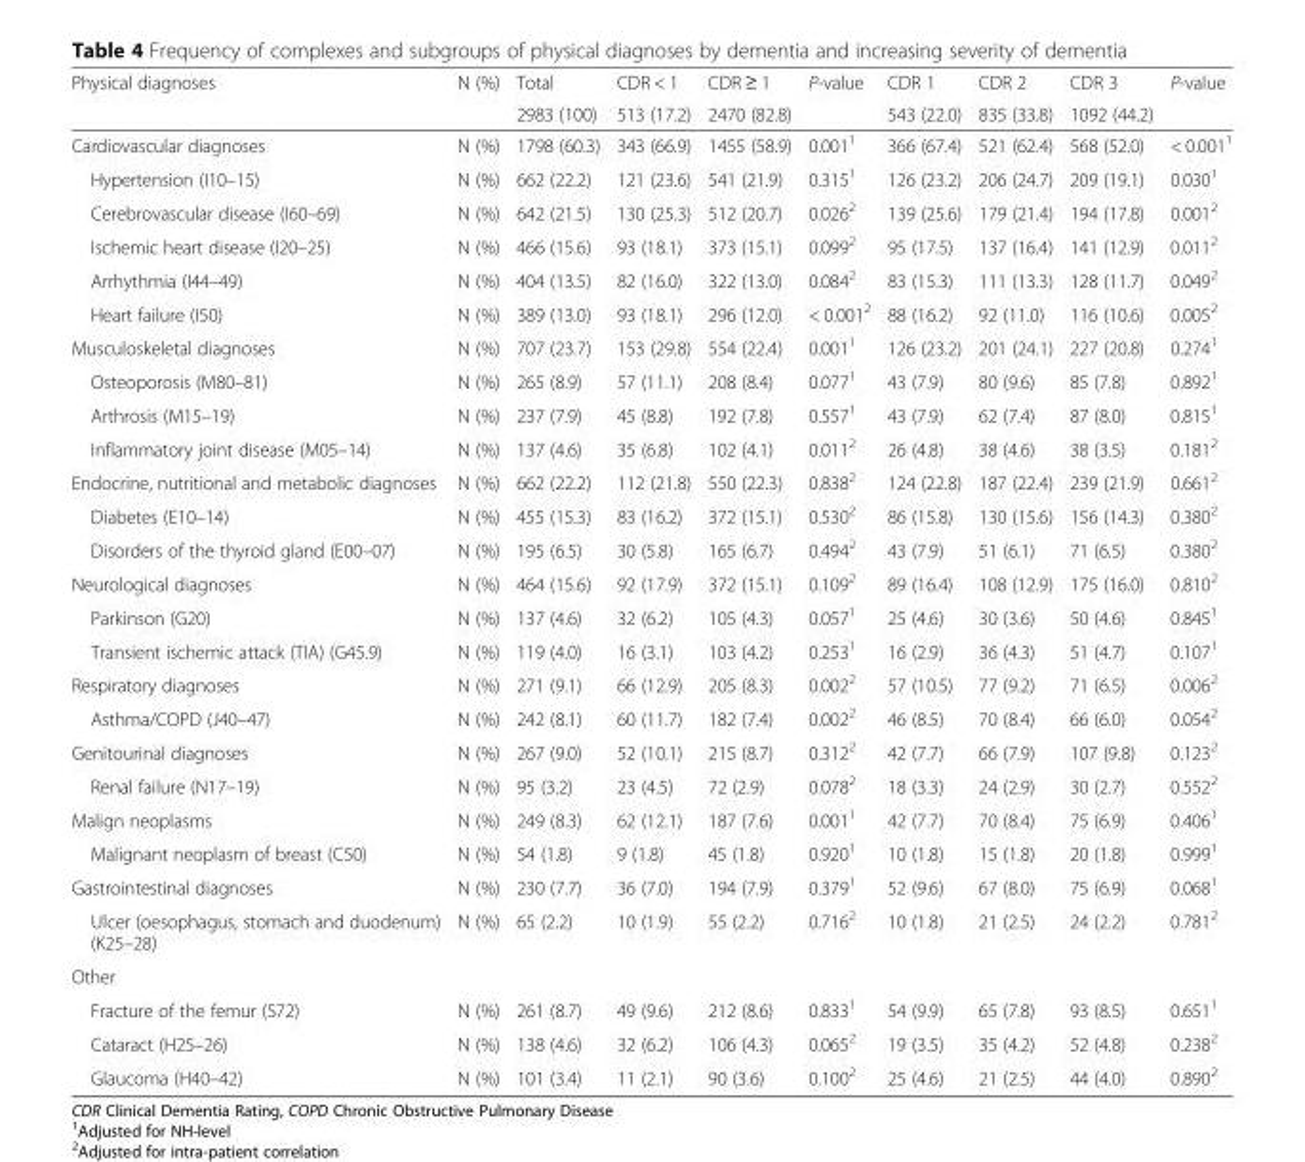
<table><thead><tr><td rowspan="2">Physical diagnoses</td><td rowspan="2">N (%)</td><td rowspan="2">Total 2983 (100)</td><td rowspan="2">CDR &lt; 1 513 (17.2)</td><td rowspan="2">CDR ≥ 1 2470 (82.8)</td><td rowspan="2">P-value</td><td rowspan="2">CDR 1 543 (22.0)</td><td rowspan="2">CDR 2 835 (33.8)</td><td rowspan="2">CDR 3 1092 (44.2)</td><td rowspan="2">P-value</td></tr><tr></tr></thead><tbody><tr><td>Cardiovascular diagnoses</td><td>N (%)</td><td>1798 (60.3)</td><td>343 (66.9)</td><td>1455 (58.9)</td><td>0.001<sup>1</sup></td><td>366 (67.4)</td><td>521 (62.4)</td><td>568 (52.0)</td><td>&lt; 0.001<sup>1</sup></td></tr><tr><td>Hypertension (I10–15)</td><td>N (%)</td><td>662 (22.2)</td><td>121 (23.6)</td><td>541 (21.9)</td><td>0.315<sup>1</sup></td><td>126 (23.2)</td><td>206 (24.7)</td><td>209 (19.1)</td><td>0.030<sup>1</sup></td></tr><tr><td>Cerebrovascular disease (I60–69)</td><td>N (%)</td><td>642 (21.5)</td><td>130 (25.3)</td><td>512 (20.7)</td><td>0.026<sup>2</sup></td><td>139 (25.6)</td><td>179 (21.4)</td><td>194 (17.8)</td><td>0.001<sup>2</sup></td></tr><tr><td>Ischemic heart disease (I20–25)</td><td>N (%)</td><td>466 (15.6)</td><td>93 (18.1)</td><td>373 (15.1)</td><td>0.099<sup>2</sup></td><td>95 (17.5)</td><td>137 (16.4)</td><td>141 (12.9)</td><td>0.011<sup>2</sup></td></tr><tr><td>Arrhythmia (I44–49)</td><td>N (%)</td><td>404 (13.5)</td><td>82 (16.0)</td><td>322 (13.0)</td><td>0.084<sup>2</sup></td><td>83 (15.3)</td><td>111 (13.3)</td><td>128 (11.7)</td><td>0.049<sup>2</sup></td></tr><tr><td>Heart failure (I50)</td><td>N (%)</td><td>389 (13.0)</td><td>93 (18.1)</td><td>296 (12.0)</td><td>&lt; 0.001<sup>2</sup></td><td>88 (16.2)</td><td>92 (11.0)</td><td>116 (10.6)</td><td>0.005<sup>2</sup></td></tr><tr><td>Musculoskeletal diagnoses</td><td>N (%)</td><td>707 (23.7)</td><td>153 (29.8)</td><td>554 (22.4)</td><td>0.001<sup>1</sup></td><td>126 (23.2)</td><td>201 (24.1)</td><td>227 (20.8)</td><td>0.274<sup>1</sup></td></tr><tr><td>Osteoporosis (M80–81)</td><td>N (%)</td><td>265 (8.9)</td><td>57 (11.1)</td><td>208 (8.4)</td><td>0.077<sup>1</sup></td><td>43 (7.9)</td><td>80 (9.6)</td><td>85 (7.8)</td><td>0.892<sup>1</sup></td></tr><tr><td>Arthrosis (M15–19)</td><td>N (%)</td><td>237 (7.9)</td><td>45 (8.8)</td><td>192 (7.8)</td><td>0.557<sup>1</sup></td><td>43 (7.9)</td><td>62 (7.4)</td><td>87 (8.0)</td><td>0.815<sup>1</sup></td></tr><tr><td>Inflammatory joint disease (M05–14)</td><td>N (%)</td><td>137 (4.6)</td><td>35 (6.8)</td><td>102 (4.1)</td><td>0.011<sup>2</sup></td><td>26 (4.8)</td><td>38 (4.6)</td><td>38 (3.5)</td><td>0.181<sup>2</sup></td></tr><tr><td>Endocrine, nutritional and metabolic diagnoses</td><td>N (%)</td><td>662 (22.2)</td><td>112 (21.8)</td><td>550 (22.3)</td><td>0.838<sup>2</sup></td><td>124 (22.8)</td><td>187 (22.4)</td><td>239 (21.9)</td><td>0.661<sup>2</sup></td></tr><tr><td>Diabetes (E10–14)</td><td>N (%)</td><td>455 (15.3)</td><td>83 (16.2)</td><td>372 (15.1)</td><td>0.530<sup>2</sup></td><td>86 (15.8)</td><td>130 (15.6)</td><td>156 (14.3)</td><td>0.380<sup>2</sup></td></tr><tr><td>Disorders of the thyroid gland (E00–07)</td><td>N (%)</td><td>195 (6.5)</td><td>30 (5.8)</td><td>165 (6.7)</td><td>0.494<sup>2</sup></td><td>43 (7.9)</td><td>51 (6.1)</td><td>71 (6.5)</td><td>0.380<sup>2</sup></td></tr><tr><td>Neurological diagnoses</td><td>N (%)</td><td>464 (15.6)</td><td>92 (17.9)</td><td>372 (15.1)</td><td>0.109<sup>2</sup></td><td>89 (16.4)</td><td>108 (12.9)</td><td>175 (16.0)</td><td>0.810<sup>2</sup></td></tr><tr><td>Parkinson (G20)</td><td>N (%)</td><td>137 (4.6)</td><td>32 (6.2)</td><td>105 (4.3)</td><td>0.057<sup>1</sup></td><td>25 (4.6)</td><td>30 (3.6)</td><td>50 (4.6)</td><td>0.845<sup>1</sup></td></tr><tr><td>Transient ischemic attack (TIA) (G45.9)</td><td>N (%)</td><td>119 (4.0)</td><td>16 (3.1)</td><td>103 (4.2)</td><td>0.253<sup>1</sup></td><td>16 (2.9)</td><td>36 (4.3)</td><td>51 (4.7)</td><td>0.107<sup>1</sup></td></tr><tr><td>Respiratory diagnoses</td><td>N (%)</td><td>271 (9.1)</td><td>66 (12.9)</td><td>205 (8.3)</td><td>0.002<sup>2</sup></td><td>57 (10.5)</td><td>77 (9.2)</td><td>71 (6.5)</td><td>0.006<sup>2</sup></td></tr><tr><td>Asthma/COPD (J40–47)</td><td>N (%)</td><td>242 (8.1)</td><td>60 (11.7)</td><td>182 (7.4)</td><td>0.002<sup>2</sup></td><td>46 (8.5)</td><td>70 (8.4)</td><td>66 (6.0)</td><td>0.054<sup>2</sup></td></tr><tr><td>Genitourinal diagnoses</td><td>N (%)</td><td>267 (9.0)</td><td>52 (10.1)</td><td>215 (8.7)</td><td>0.312<sup>2</sup></td><td>42 (7.7)</td><td>66 (7.9)</td><td>107 (9.8)</td><td>0.123<sup>2</sup></td></tr><tr><td>Renal failure (N17–19)</td><td>N (%)</td><td>95 (3.2)</td><td>23 (4.5)</td><td>72 (2.9)</td><td>0.078<sup>2</sup></td><td>18 (3.3)</td><td>24 (2.9)</td><td>30 (2.7)</td><td>0.552<sup>2</sup></td></tr><tr><td>Malign neoplasms</td><td>N (%)</td><td>249 (8.3)</td><td>62 (12.1)</td><td>187 (7.6)</td><td>0.001<sup>1</sup></td><td>42 (7.7)</td><td>70 (8.4)</td><td>75 (6.9)</td><td>0.406<sup>1</sup></td></tr><tr><td>Malignant neoplasm of breast (C50)</td><td>N (%)</td><td>54 (1.8)</td><td>9 (1.8)</td><td>45 (1.8)</td><td>0.920<sup>1</sup></td><td>10 (1.8)</td><td>15 (1.8)</td><td>20 (1.8)</td><td>0.999<sup>1</sup></td></tr><tr><td>Gastrointestinal diagnoses</td><td>N (%)</td><td>230 (7.7)</td><td>36 (7.0)</td><td>194 (7.9)</td><td>0.379<sup>1</sup></td><td>52 (9.6)</td><td>67 (8.0)</td><td>75 (6.9)</td><td>0.068<sup>1</sup></td></tr><tr><td>Ulcer (oesophagus, stomach and duodenum) (K25–28)</td><td>N (%)</td><td>65 (2.2)</td><td>10 (1.9)</td><td>55 (2.2)</td><td>0.716<sup>2</sup></td><td>10 (1.8)</td><td>21 (2.5)</td><td>24 (2.2)</td><td>0.781<sup>2</sup></td></tr><tr><td colspan="10">Other</td></tr><tr><td>Fracture of the femur (S72)</td><td>N (%)</td><td>261 (8.7)</td><td>49 (9.6)</td><td>212 (8.6)</td><td>0.833<sup>1</sup></td><td>54 (9.9)</td><td>65 (7.8)</td><td>93 (8.5)</td><td>0.651<sup>1</sup></td></tr><tr><td>Cataract (H25–26)</td><td>N (%)</td><td>138 (4.6)</td><td>32 (6.2)</td><td>106 (4.3)</td><td>0.065<sup>2</sup></td><td>19 (3.5)</td><td>35 (4.2)</td><td>52 (4.8)</td><td>0.238<sup>2</sup></td></tr><tr><td>Glaucoma (H40–42)</td><td>N (%)</td><td>101 (3.4)</td><td>11 (2.1)</td><td>90 (3.6)</td><td>0.100<sup>2</sup></td><td>25 (4.6)</td><td>21 (2.5)</td><td>44 (4.0)</td><td>0.890<sup>2</sup></td></tr></tbody></table>